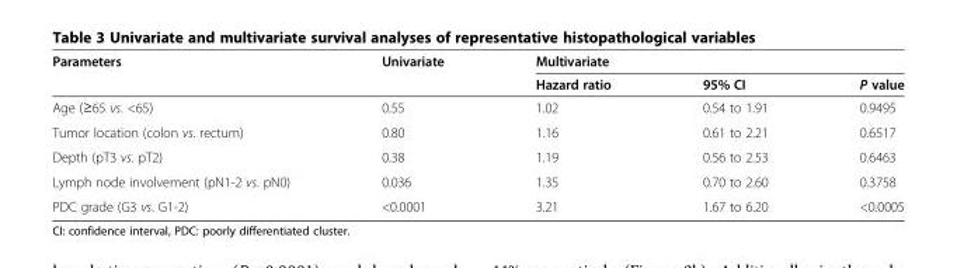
<table><thead><tr><td rowspan="2">Parameters</td><td rowspan="2">Univariate</td><td colspan="3">Multivariate</td></tr><tr><td>Hazard ratio</td><td>95% CI</td><td>P value</td></tr></thead><tbody><tr><td>Age (≥65 vs. &lt;65)</td><td>0.55</td><td>1.02</td><td>0.54 to 1.91</td><td>0.9495</td></tr><tr><td>Tumor location (colon vs. rectum)</td><td>0.80</td><td>1.16</td><td>0.61 to 2.21</td><td>0.6517</td></tr><tr><td>Depth (pT3 vs. pT2)</td><td>0.38</td><td>1.19</td><td>0.56 to 2.53</td><td>0.6463</td></tr><tr><td>Lymph node involvement (pN1-2 vs. pN0)</td><td>0.036</td><td>1.35</td><td>0.70 to 2.60</td><td>0.3758</td></tr><tr><td>PDC grade (G3 vs. G1-2)</td><td>&lt;0.0001</td><td>3.21</td><td>1.67 to 6.20</td><td>&lt;0.0005</td></tr></tbody></table>